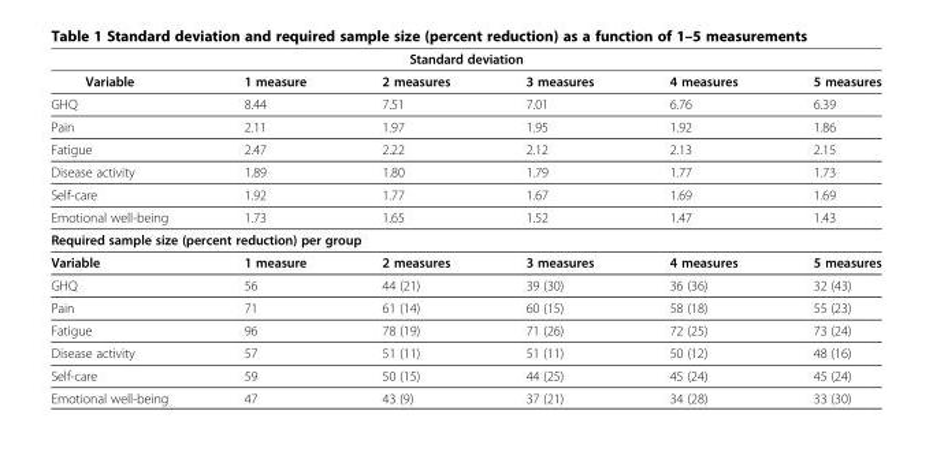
<table><thead><tr><td colspan="6">Standard deviation</td></tr><tr><td>Variable</td><td>1 measure</td><td>2 measures</td><td>3 measures</td><td>4 measures</td><td>5 measures</td></tr></thead><tbody><tr><td>GHQ</td><td>8.44</td><td>7.51</td><td>7.01</td><td>6.76</td><td>6.39</td></tr><tr><td>Pain</td><td>2.11</td><td>1.97</td><td>1.95</td><td>1.92</td><td>1.86</td></tr><tr><td>Fatigue</td><td>2.47</td><td>2.22</td><td>2.12</td><td>2.13</td><td>2.15</td></tr><tr><td>Disease activity</td><td>1.89</td><td>1.80</td><td>1.79</td><td>1.77</td><td>1.73</td></tr><tr><td>Self-care</td><td>1.92</td><td>1.77</td><td>1.67</td><td>1.69</td><td>1.69</td></tr><tr><td>Emotional well-being</td><td>1.73</td><td>1.65</td><td>1.52</td><td>1.47</td><td>1.43</td></tr><tr><td colspan="6">Required sample size (percent reduction) per group</td></tr><tr><td>Variable</td><td>1 measure</td><td>2 measures</td><td>3 measures</td><td>4 measures</td><td>5 measures</td></tr><tr><td>GHQ</td><td>56</td><td>44 (21)</td><td>39 (30)</td><td>36 (36)</td><td>32 (43)</td></tr><tr><td>Pain</td><td>71</td><td>61 (14)</td><td>60 (15)</td><td>58 (18)</td><td>55 (23)</td></tr><tr><td>Fatigue</td><td>96</td><td>78 (19)</td><td>71 (26)</td><td>72 (25)</td><td>73 (24)</td></tr><tr><td>Disease activity</td><td>57</td><td>51 (11)</td><td>51 (11)</td><td>50 (12)</td><td>48 (16)</td></tr><tr><td>Self-care</td><td>59</td><td>50 (15)</td><td>44 (25)</td><td>45 (24)</td><td>45 (24)</td></tr><tr><td>Emotional well-being</td><td>47</td><td>43 (9)</td><td>37 (21)</td><td>34 (28)</td><td>33 (30)</td></tr></tbody></table>